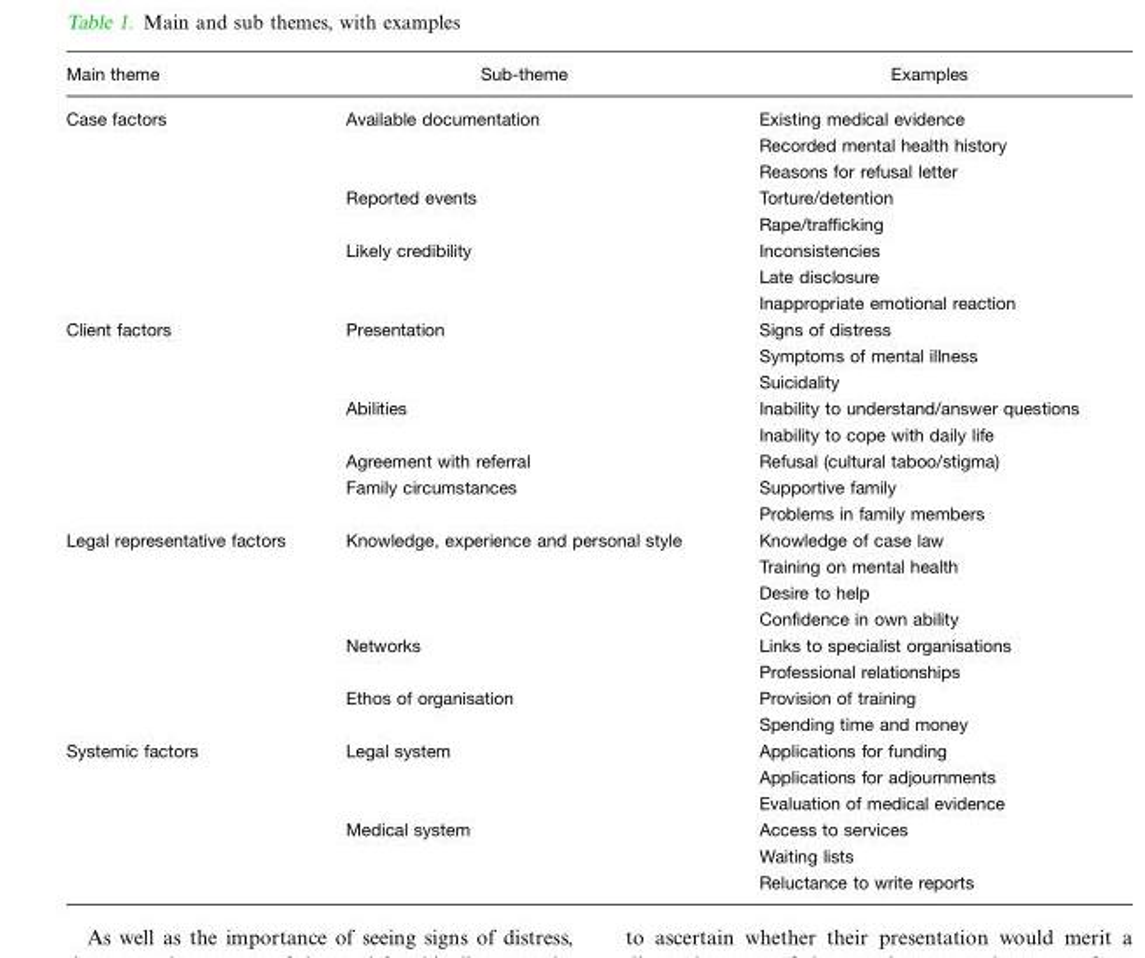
<table><thead><tr><td>Main theme</td><td>Sub-theme</td><td>Examples</td></tr></thead><tbody><tr><td rowspan="8">Case factors</td><td>Available documentation</td><td>Existing medical evidence</td></tr><tr><td></td><td>Recorded mental health history</td></tr><tr><td></td><td>Reasons for refusal letter</td></tr><tr><td>Reported events</td><td>Torture/detention</td></tr><tr><td></td><td>Rape/trafficking</td></tr><tr><td>Likely credibility</td><td>Inconsistencies</td></tr><tr><td></td><td>Late disclosure</td></tr><tr><td></td><td>Inappropriate emotional reaction</td></tr><tr><td rowspan="8">Client factors</td><td>Presentation</td><td>Signs of distress</td></tr><tr><td></td><td>Symptoms of mental illness</td></tr><tr><td></td><td>Suicidality</td></tr><tr><td>Abilities</td><td>Inability to understand/answer questions</td></tr><tr><td></td><td>Inability to cope with daily life</td></tr><tr><td>Agreement with referral</td><td>Refusal (cultural taboo/stigma)</td></tr><tr><td>Family circumstances</td><td>Supportive family</td></tr><tr><td></td><td>Problems in family members</td></tr><tr><td rowspan="8">Legal representative factors</td><td>Knowledge, experience and personal style</td><td>Knowledge of case law</td></tr><tr><td></td><td>Training on mental health</td></tr><tr><td></td><td>Desire to help</td></tr><tr><td></td><td>Confidence in own ability</td></tr><tr><td>Networks</td><td>Links to specialist organisations</td></tr><tr><td></td><td>Professional relationships</td></tr><tr><td>Ethos of organisation</td><td>Provision of training</td></tr><tr><td></td><td>Spending time and money</td></tr><tr><td rowspan="6">Systemic factors</td><td>Legal system</td><td>Applications for funding</td></tr><tr><td></td><td>Applications for adjournments</td></tr><tr><td></td><td>Evaluation of medical evidence</td></tr><tr><td>Medical system</td><td>Access to services</td></tr><tr><td></td><td>Waiting lists</td></tr><tr><td></td><td>Reluctance to write reports</td></tr></tbody></table>